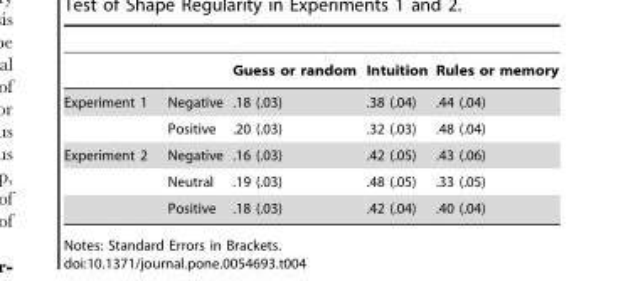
<table><thead><tr><td></td><td></td><td>Guess or random</td><td>Intuition</td><td>Rules or memory</td></tr></thead><tbody><tr><td rowspan="2">Experiment 1</td><td>Negative</td><td>.18 (.03)</td><td>.38 (.04)</td><td>.44 (.04)</td></tr><tr><td>Positive</td><td>.20 (.03)</td><td>.32 (.03)</td><td>.48 (.04)</td></tr><tr><td rowspan="3">Experiment 2</td><td>Negative</td><td>.16 (.03)</td><td>.42 (.05)</td><td>.43 (.06)</td></tr><tr><td>Neutral</td><td>.19 (.03)</td><td>.48 (.05)</td><td>.33 (.05)</td></tr><tr><td>Positive</td><td>.18 (.03)</td><td>.42 (.04)</td><td>.40 (.04)</td></tr></tbody></table>